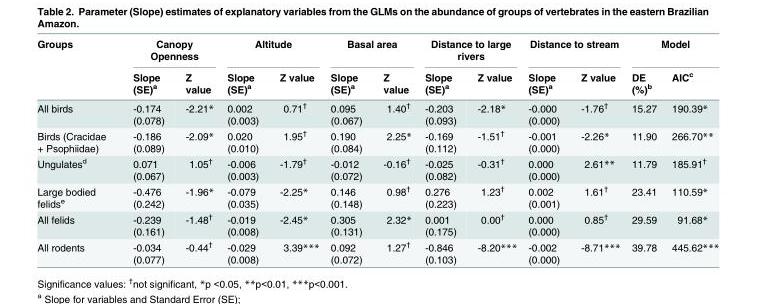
<table><thead><tr><td rowspan="2">Groups</td><td colspan="2">Canopy Openness</td><td colspan="2">Altitude</td><td colspan="2">Basal area</td><td colspan="2">Distance to large rivers</td><td colspan="2">Distance to stream</td><td colspan="2">Model</td></tr><tr><td>Slope (SE)<sup>a</sup></td><td>Z value</td><td>Slope (SE)<sup>a</sup></td><td>Z value</td><td>Slope (SE)<sup>a</sup></td><td>Z value</td><td>Slope (SE)<sup>a</sup></td><td>Z value</td><td>Slope (SE)<sup>a</sup></td><td>Z value</td><td>DE (%)<sup>b</sup></td><td>AIC<sup>c</sup></td></tr></thead><tbody><tr><td>All birds</td><td>-0.174 (0.078)</td><td>-2.21*</td><td>0.002 (0.003)</td><td>0.71<sup>†</sup></td><td>0.095 (0.067)</td><td>1.40<sup>†</sup></td><td>-0.203 (0.093)</td><td>-2.18*</td><td>-0.000 (0.000)</td><td>-1.76<sup>†</sup></td><td>15.27</td><td>190.39*</td></tr><tr><td>Birds (Cracidae + Psophiidae)</td><td>-0.186 (0.089)</td><td>-2.09*</td><td>0.020 (0.010)</td><td>1.95<sup>†</sup></td><td>0.190 (0.084)</td><td>2.25*</td><td>-0.169 (0.112)</td><td>-1.51<sup>†</sup></td><td>-0.001 (0.000)</td><td>-2.26*</td><td>11.90</td><td>266.70**</td></tr><tr><td>Ungulates<sup>d</sup></td><td>0.071 (0.067)</td><td>1.05<sup>†</sup></td><td>-0.006 (0.003)</td><td>-1.79<sup>†</sup></td><td>-0.012 (0.072)</td><td>-0.16<sup>†</sup></td><td>-0.025 (0.082)</td><td>-0.31<sup>†</sup></td><td>0.000 (0.000)</td><td>2.61**</td><td>11.79</td><td>185.91<sup>†</sup></td></tr><tr><td>Large bodied felids<sup>e</sup></td><td>-0.476 (0.242)</td><td>-1.96*</td><td>-0.079 (0.035)</td><td>-2.25*</td><td>0.146 (0.148)</td><td>0.98<sup>†</sup></td><td>0.276 (0.223)</td><td>1.23<sup>†</sup></td><td>0.002 (0.001)</td><td>1.61<sup>†</sup></td><td>23.41</td><td>110.59*</td></tr><tr><td>All felids</td><td>-0.239 (0.161)</td><td>-1.48<sup>†</sup></td><td>-0.019 (0.008)</td><td>-2.45*</td><td>0.305 (0.131)</td><td>2.32*</td><td>0.001 (0.175)</td><td>0.00<sup>†</sup></td><td>0.000 (0.000)</td><td>0.85<sup>†</sup></td><td>29.59</td><td>91.68*</td></tr><tr><td>All rodents</td><td>-0.034 (0.077)</td><td>-0.44<sup>†</sup></td><td>-0.029 (0.008)</td><td>3.39***</td><td>0.092 (0.072)</td><td>1.27<sup>†</sup></td><td>-0.846 (0.103)</td><td>-8.20***</td><td>-0.002 (0.000)</td><td>-8.71***</td><td>39.78</td><td>445.62***</td></tr></tbody></table>